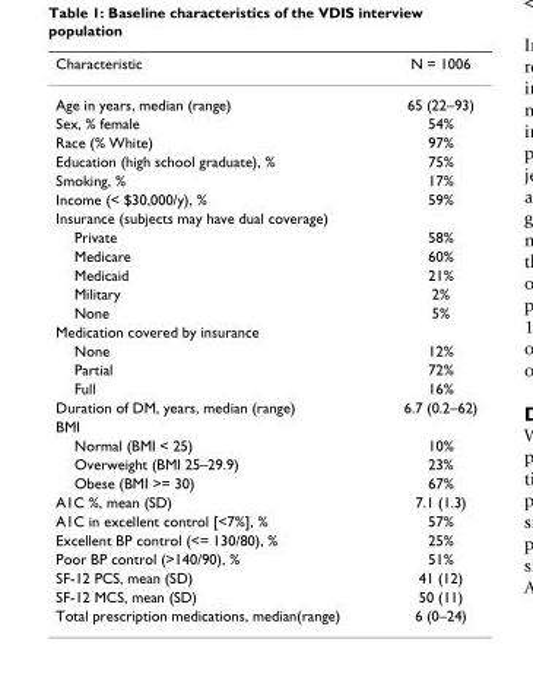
<table><thead><tr><td>Characteristic</td><td>N = 1006</td></tr></thead><tbody><tr><td>Age in years, median (range)</td><td>65 (22–93)</td></tr><tr><td>Sex, % female</td><td>54%</td></tr><tr><td>Race (% White)</td><td>97%</td></tr><tr><td>Education (high school graduate), %</td><td>75%</td></tr><tr><td>Smoking, %</td><td>17%</td></tr><tr><td>Income (&lt; $30,000/y), %</td><td>59%</td></tr><tr><td colspan="2">Insurance (subjects may have dual coverage)</td></tr><tr><td>Private</td><td>58%</td></tr><tr><td>Medicare</td><td>60%</td></tr><tr><td>Medicaid</td><td>21%</td></tr><tr><td>Military</td><td>2%</td></tr><tr><td>None</td><td>5%</td></tr><tr><td colspan="2">Medication covered by insurance</td></tr><tr><td>None</td><td>12%</td></tr><tr><td>Partial</td><td>72%</td></tr><tr><td>Full</td><td>16%</td></tr><tr><td>Duration of DM, years, median (range)</td><td>6.7 (0.2–62)</td></tr><tr><td colspan="2">BMI</td></tr><tr><td>Normal (BMI &lt; 25)</td><td>10%</td></tr><tr><td>Overweight (BMI 25–29.9)</td><td>23%</td></tr><tr><td>Obese (BMI &gt;= 30)</td><td>67%</td></tr><tr><td>A1C %, mean (SD)</td><td>7.1 (1.3)</td></tr><tr><td>A1C in excellent control [&lt;7%], %</td><td>57%</td></tr><tr><td>Excellent BP control (&lt;= 130/80), %</td><td>25%</td></tr><tr><td>Poor BP control (&gt;140/90), %</td><td>51%</td></tr><tr><td>SF-12 PCS, mean (SD)</td><td>41 (12)</td></tr><tr><td>SF-12 MCS, mean (SD)</td><td>50 (11)</td></tr><tr><td>Total prescription medications, median(range)</td><td>6 (0–24)</td></tr></tbody></table>